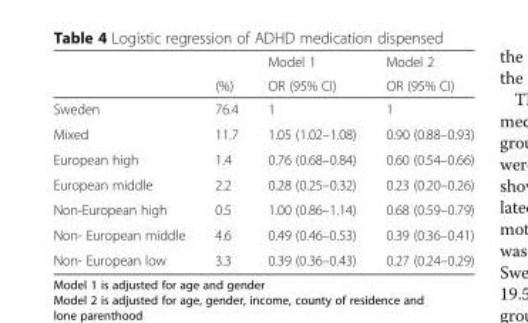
<table><thead><tr><td rowspan="2"></td><td rowspan="2">(%)</td><td rowspan="2">Model 1 OR (95% CI)</td><td rowspan="2">Model 2 OR (95% CI)</td></tr><tr></tr></thead><tbody><tr><td>Sweden</td><td>76.4</td><td>1</td><td>1</td></tr><tr><td>Mixed</td><td>11.7</td><td>1.05 (1.02–1.08)</td><td>0.90 (0.88–0.93)</td></tr><tr><td>European high</td><td>1.4</td><td>0.76 (0.68–0.84)</td><td>0.60 (0.54–0.66)</td></tr><tr><td>European middle</td><td>2.2</td><td>0.28 (0.25–0.32)</td><td>0.23 (0.20–0.26)</td></tr><tr><td>Non-European high</td><td>0.5</td><td>1.00 (0.86–1.14)</td><td>0.68 (0.59–0.79)</td></tr><tr><td>Non- European middle</td><td>4.6</td><td>0.49 (0.46–0.53)</td><td>0.39 (0.36–0.41)</td></tr><tr><td>Non- European low</td><td>3.3</td><td>0.39 (0.36–0.43)</td><td>0.27 (0.24–0.29)</td></tr></tbody></table>